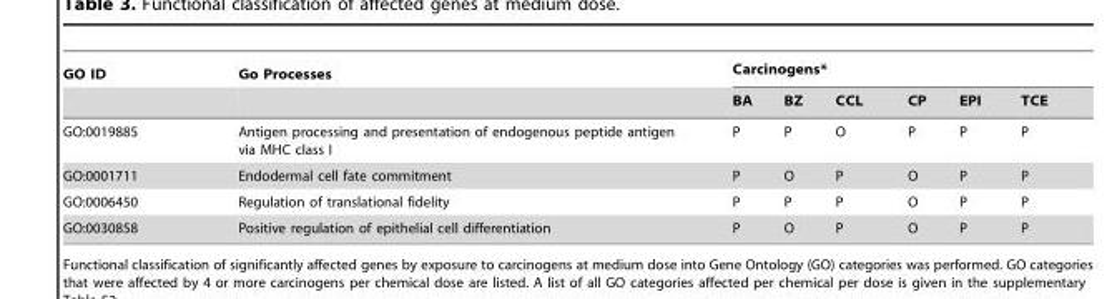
<table><thead><tr><td rowspan="2">GO ID</td><td rowspan="2">Go Processes</td><td colspan="6">Carcinogens*</td></tr><tr><td>BA</td><td>BZ</td><td>CCL</td><td>CP</td><td>EPI</td><td>TCE</td></tr></thead><tbody><tr><td>GO:0019885</td><td>Antigen processing and presentation of endogenous peptide antigen via MHC class I</td><td>P</td><td>P</td><td>O</td><td>P</td><td>P</td><td>P</td></tr><tr><td>GO:0001711</td><td>Endodermal cell fate commitment</td><td>P</td><td>O</td><td>P</td><td>O</td><td>P</td><td>P</td></tr><tr><td>GO:0006450</td><td>Regulation of translational fidelity</td><td>P</td><td>P</td><td>P</td><td>O</td><td>P</td><td>P</td></tr><tr><td>GO:0030858</td><td>Positive regulation of epithelial cell differentiation</td><td>P</td><td>O</td><td>P</td><td>O</td><td>P</td><td>P</td></tr></tbody></table>